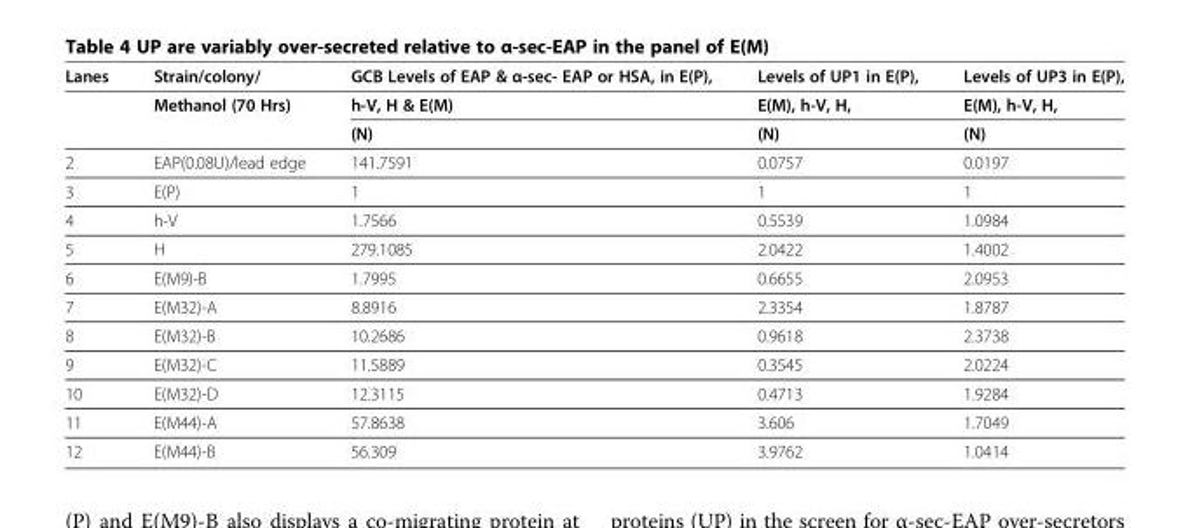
<table><thead><tr><td>Lanes</td><td>Strain/colony/</td><td>GCB Levels of EAP &amp; α-sec- EAP or HSA, in E(P),</td><td>Levels of UP1 in E(P),</td><td>Levels of UP3 in E(P),</td></tr></thead><tbody><tr><td rowspan="2"></td><td rowspan="2">Methanol (70 Hrs)</td><td>h-V, H &amp; E(M)</td><td>E(M), h-V, H,</td><td>E(M), h-V, H,</td></tr><tr><td>(N)</td><td>(N)</td><td>(N)</td></tr><tr><td>2</td><td>EAP(0.08U)/lead edge</td><td>141.7591</td><td>0.0757</td><td>0.0197</td></tr><tr><td>3</td><td>E(P)</td><td>1</td><td>1</td><td>1</td></tr><tr><td>4</td><td>h-V</td><td>1.7566</td><td>0.5539</td><td>1.0984</td></tr><tr><td>5</td><td>H</td><td>279.1085</td><td>2.0422</td><td>1.4002</td></tr><tr><td>6</td><td>E(M9)-B</td><td>1.7995</td><td>0.6655</td><td>2.0953</td></tr><tr><td>7</td><td>E(M32)-A</td><td>8.8916</td><td>2.3354</td><td>1.8787</td></tr><tr><td>8</td><td>E(M32)-B</td><td>10.2686</td><td>0.9618</td><td>2.3738</td></tr><tr><td>9</td><td>E(M32)-C</td><td>11.5889</td><td>0.3545</td><td>2.0224</td></tr><tr><td>10</td><td>E(M32)-D</td><td>12.3115</td><td>0.4713</td><td>1.9284</td></tr><tr><td>11</td><td>E(M44)-A</td><td>57.8638</td><td>3.606</td><td>1.7049</td></tr><tr><td>12</td><td>E(M44)-B</td><td>56.309</td><td>3.9762</td><td>1.0414</td></tr></tbody></table>